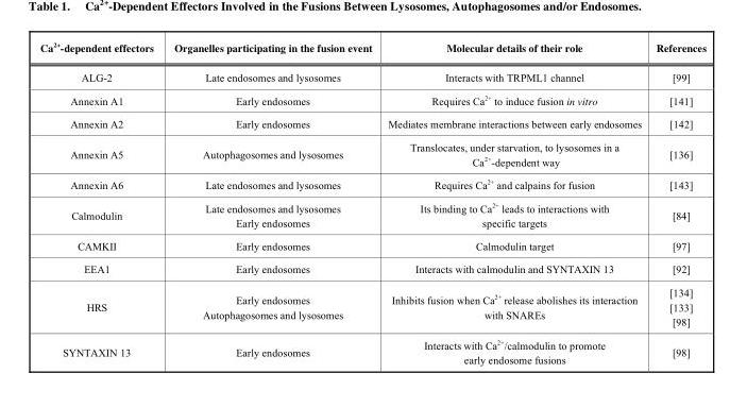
<table><thead><tr><td>Ca<sup>2+</sup>-dependent effectors</td><td>Organelles participating in the fusion event</td><td>Molecular details of their role</td><td>References</td></tr></thead><tbody><tr><td>ALG-2</td><td>Late endosomes and lysosomes</td><td>Interacts with TRPML1 channel</td><td>[99]</td></tr><tr><td>Annexin A1</td><td>Early endosomes</td><td>Requires Ca<sup>2+</sup> to induce fusion in vitro</td><td>[141]</td></tr><tr><td>Annexin A2</td><td>Early endosomes</td><td>Mediates membrane interactions between early endosomes</td><td>[142]</td></tr><tr><td>Annexin A5</td><td>Autophagosomes and lysosomes</td><td>Translocates, under starvation, to lysosomes in a Ca<sup>2+</sup>-dependent way</td><td>[136]</td></tr><tr><td>Annexin A6</td><td>Late endosomes and lysosomes</td><td>Requires Ca<sup>2+</sup> and calpains for fusion</td><td>[143]</td></tr><tr><td>Calmodulin</td><td>Late endosomes and lysosomes Early endosomes</td><td>Its binding to Ca<sup>2+</sup> leads to interactions with specific targets</td><td>[84]</td></tr><tr><td>CAMKII</td><td>Early endosomes</td><td>Calmodulin target</td><td>[97]</td></tr><tr><td>EEA1</td><td>Early endosomes</td><td>Interacts with calmodulin and SYNTAXIN 13</td><td>[92]</td></tr><tr><td>HRS</td><td>Early endosomes Autophagosomes and lysosomes</td><td>Inhibits fusion when Ca<sup>2+</sup> release abolishes its interaction with SNAREs</td><td>[134] [133] [98]</td></tr><tr><td>SYNTAXIN 13</td><td>Early endosomes</td><td>Interacts with Ca<sup>2+</sup>/calmodulin to promote early endosome fusions</td><td>[98]</td></tr></tbody></table>